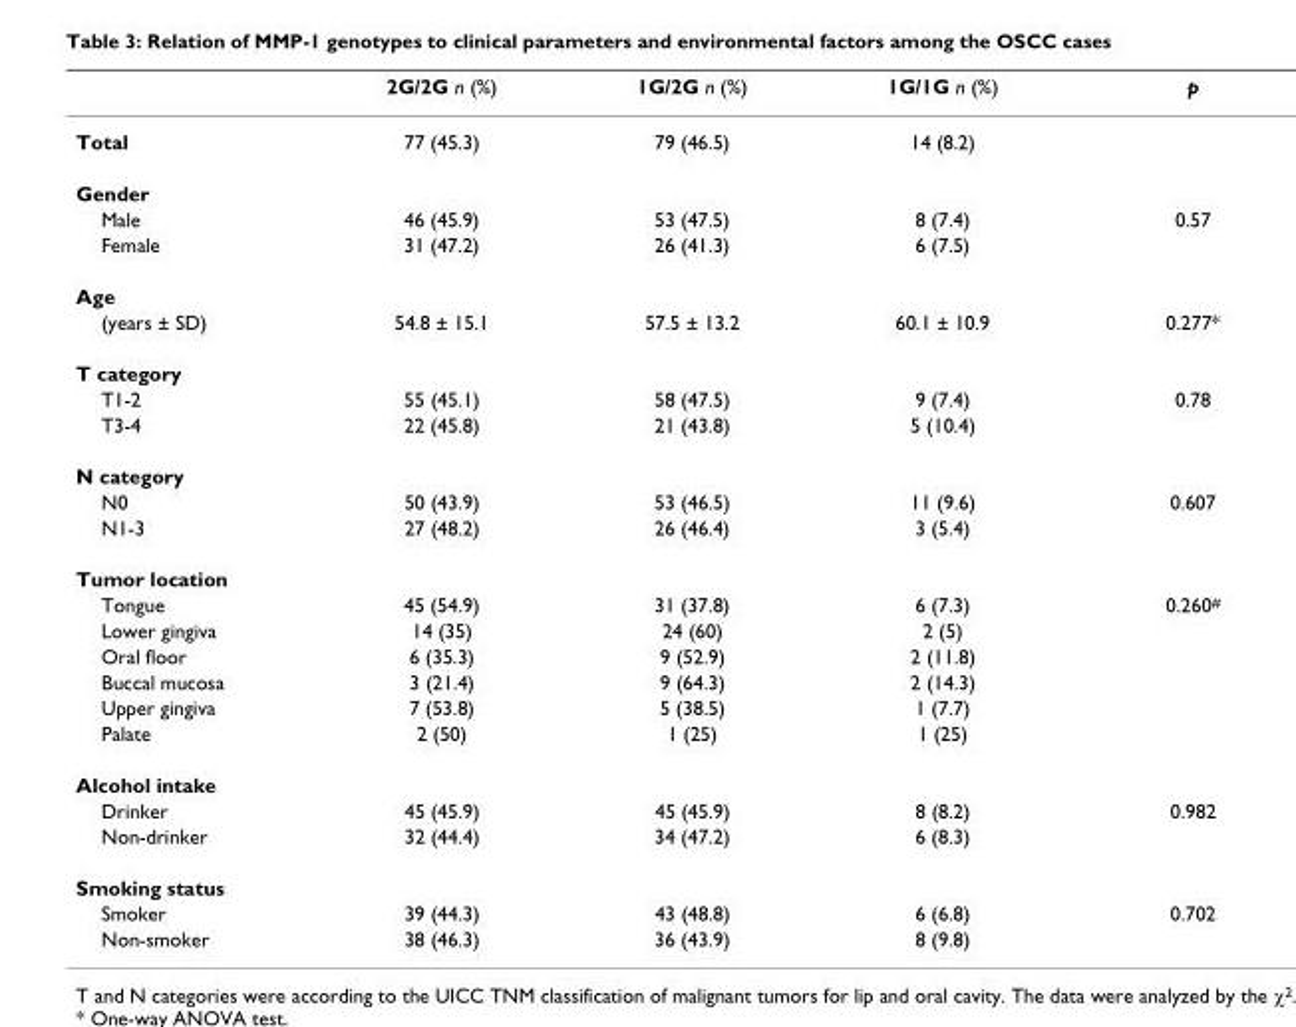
<table><thead><tr><td></td><td>2G/2G n (%)</td><td>1G/2G n (%)</td><td>1G/1G n (%)</td><td>p</td></tr></thead><tbody><tr><td>Total</td><td>77 (45.3)</td><td>79 (46.5)</td><td>14 (8.2)</td><td></td></tr><tr><td colspan="5">Gender</td></tr><tr><td>Male</td><td>46 (45.9)</td><td>53 (47.5)</td><td>8 (7.4)</td><td>0.57</td></tr><tr><td>Female</td><td>31 (47.2)</td><td>26 (41.3)</td><td>6 (7.5)</td><td></td></tr><tr><td colspan="5">Age</td></tr><tr><td>(years ± SD)</td><td>54.8 ± 15.1</td><td>57.5 ± 13.2</td><td>60.1 ± 10.9</td><td>0.277*</td></tr><tr><td colspan="5">T category</td></tr><tr><td>T1-2</td><td>55 (45.1)</td><td>58 (47.5)</td><td>9 (7.4)</td><td>0.78</td></tr><tr><td>T3-4</td><td>22 (45.8)</td><td>21 (43.8)</td><td>5 (10.4)</td><td></td></tr><tr><td colspan="5">N category</td></tr><tr><td>N0</td><td>50 (43.9)</td><td>53 (46.5)</td><td>11 (9.6)</td><td>0.607</td></tr><tr><td>N1-3</td><td>27 (48.2)</td><td>26 (46.4)</td><td>3 (5.4)</td><td></td></tr><tr><td colspan="5">Tumor location</td></tr><tr><td>Tongue</td><td>45 (54.9)</td><td>31 (37.8)</td><td>6 (7.3)</td><td>0.260<sup>#</sup></td></tr><tr><td>Lower gingiva</td><td>14 (35)</td><td>24 (60)</td><td>2 (5)</td><td></td></tr><tr><td>Oral floor</td><td>6 (35.3)</td><td>9 (52.9)</td><td>2 (11.8)</td><td></td></tr><tr><td>Buccal mucosa</td><td>3 (21.4)</td><td>9 (64.3)</td><td>2 (14.3)</td><td></td></tr><tr><td>Upper gingiva</td><td>7 (53.8)</td><td>5 (38.5)</td><td>1 (7.7)</td><td></td></tr><tr><td>Palate</td><td>2 (50)</td><td>1 (25)</td><td>1 (25)</td><td></td></tr><tr><td colspan="5">Alcohol intake</td></tr><tr><td>Drinker</td><td>45 (45.9)</td><td>45 (45.9)</td><td>8 (8.2)</td><td>0.982</td></tr><tr><td>Non-drinker</td><td>32 (44.4)</td><td>34 (47.2)</td><td>6 (8.3)</td><td></td></tr><tr><td colspan="5">Smoking status</td></tr><tr><td>Smoker</td><td>39 (44.3)</td><td>43 (48.8)</td><td>6 (6.8)</td><td>0.702</td></tr><tr><td>Non-smoker</td><td>38 (46.3)</td><td>36 (43.9)</td><td>8 (9.8)</td><td></td></tr></tbody></table>